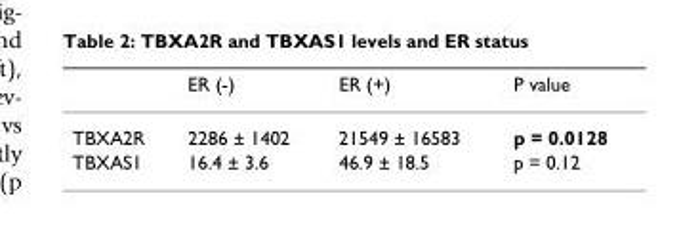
<table><thead><tr><td></td><td>ER (-)</td><td>ER (+)</td><td>P value</td></tr></thead><tbody><tr><td>TBXA2R</td><td>2286 ± 1402</td><td>21549 ± 16583</td><td>p = 0.0128</td></tr><tr><td>TBXAS1</td><td>16.4 ± 3.6</td><td>46.9 ± 18.5</td><td>p = 0.12</td></tr></tbody></table>